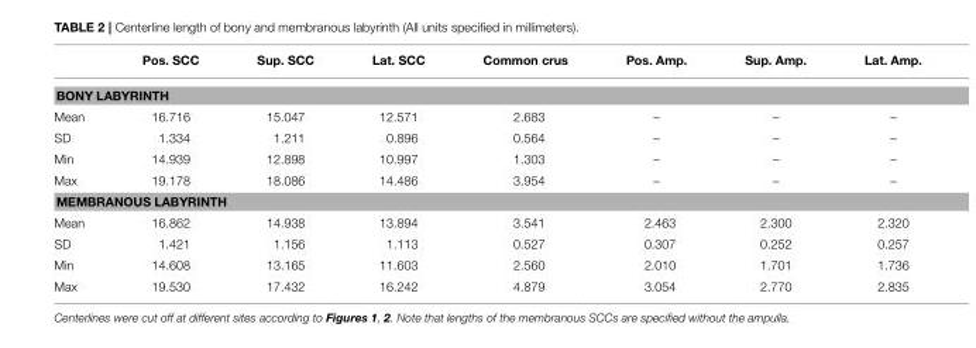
<table><thead><tr><td></td><td>Pos. SCC</td><td>Sup. SCC</td><td>Lat. SCC</td><td>Common crus</td><td>Pos. Amp.</td><td>Sup. Amp.</td><td>Lat. Amp.</td></tr></thead><tbody><tr><td colspan="8">BONY LABYRINTH</td></tr><tr><td>Mean</td><td>16.716</td><td>15.047</td><td>12.571</td><td>2.683</td><td>–</td><td>–</td><td>–</td></tr><tr><td>SD</td><td>1.334</td><td>1.211</td><td>0.896</td><td>0.564</td><td>–</td><td>–</td><td>–</td></tr><tr><td>Min</td><td>14.939</td><td>12.898</td><td>10.997</td><td>1.303</td><td>–</td><td>–</td><td>–</td></tr><tr><td>Max</td><td>19.178</td><td>18.086</td><td>14.486</td><td>3.954</td><td>–</td><td>–</td><td>–</td></tr><tr><td colspan="8">MEMBRANOUS LABYRINTH</td></tr><tr><td>Mean</td><td>16.862</td><td>14.938</td><td>13.894</td><td>3.541</td><td>2.463</td><td>2.300</td><td>2.320</td></tr><tr><td>SD</td><td>1.421</td><td>1.156</td><td>1.113</td><td>0.527</td><td>0.307</td><td>0.252</td><td>0.257</td></tr><tr><td>Min</td><td>14.608</td><td>13.165</td><td>11.603</td><td>2.560</td><td>2.010</td><td>1.701</td><td>1.736</td></tr><tr><td>Max</td><td>19.530</td><td>17.432</td><td>16.242</td><td>4.879</td><td>3.054</td><td>2.770</td><td>2.835</td></tr></tbody></table>